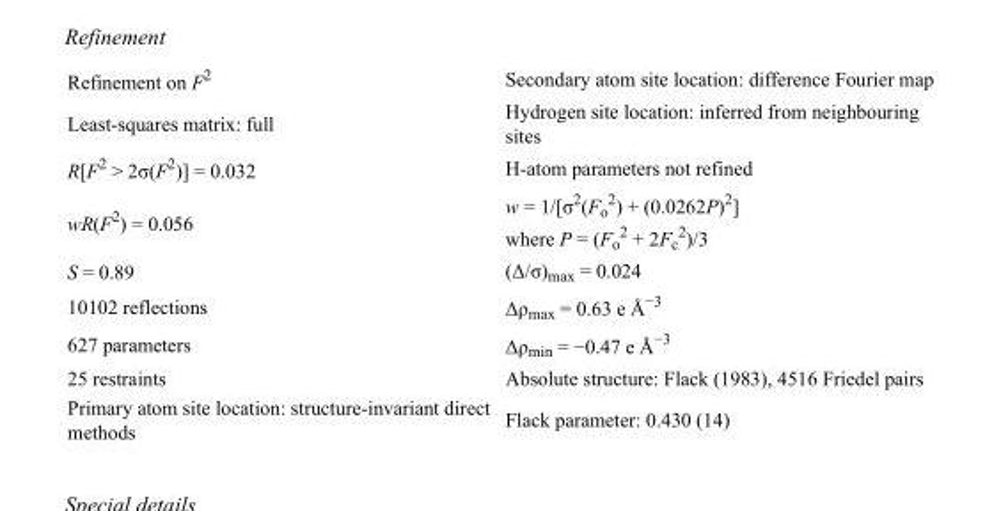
<table><tbody><tr><td>Refinement on F<sup>2</sup></td><td>Secondary atom site location: difference Fourier map</td></tr><tr><td>Least-squares matrix: full</td><td>Hydrogen site location: inferred from neighbouring sites</td></tr><tr><td>R[F<sup>2</sup> &gt; 2σ(F<sup>2</sup>)] = 0.032</td><td>H-atom parameters not refined</td></tr><tr><td>wR(F<sup>2</sup>) = 0.056</td><td>w = 1/[σ<sup>2</sup>(F<sub>o</sub> <sup>2</sup>) + (0.0262P)<sup>2</sup>] where P = (F<sub>o</sub> <sup>2</sup> + 2F<sub>c</sub> <sup>2</sup>)/3</td></tr><tr><td>S = 0.89</td><td>(Δ/σ)<sub>max</sub> = 0.024</td></tr><tr><td>10102 reflections</td><td>Δρ<sub>max</sub> = 0.63 e Å<sup>−3</sup></td></tr><tr><td>627 parameters</td><td>Δρ<sub>min</sub> = −0.47 e Å<sup>−3</sup></td></tr><tr><td>25 restraints</td><td>Absolute structure: Flack (1983), 4516 Friedel pairs</td></tr><tr><td>Primary atom site location: structure-invariant direct methods</td><td>Flack parameter: 0.430 (14)</td></tr></tbody></table>